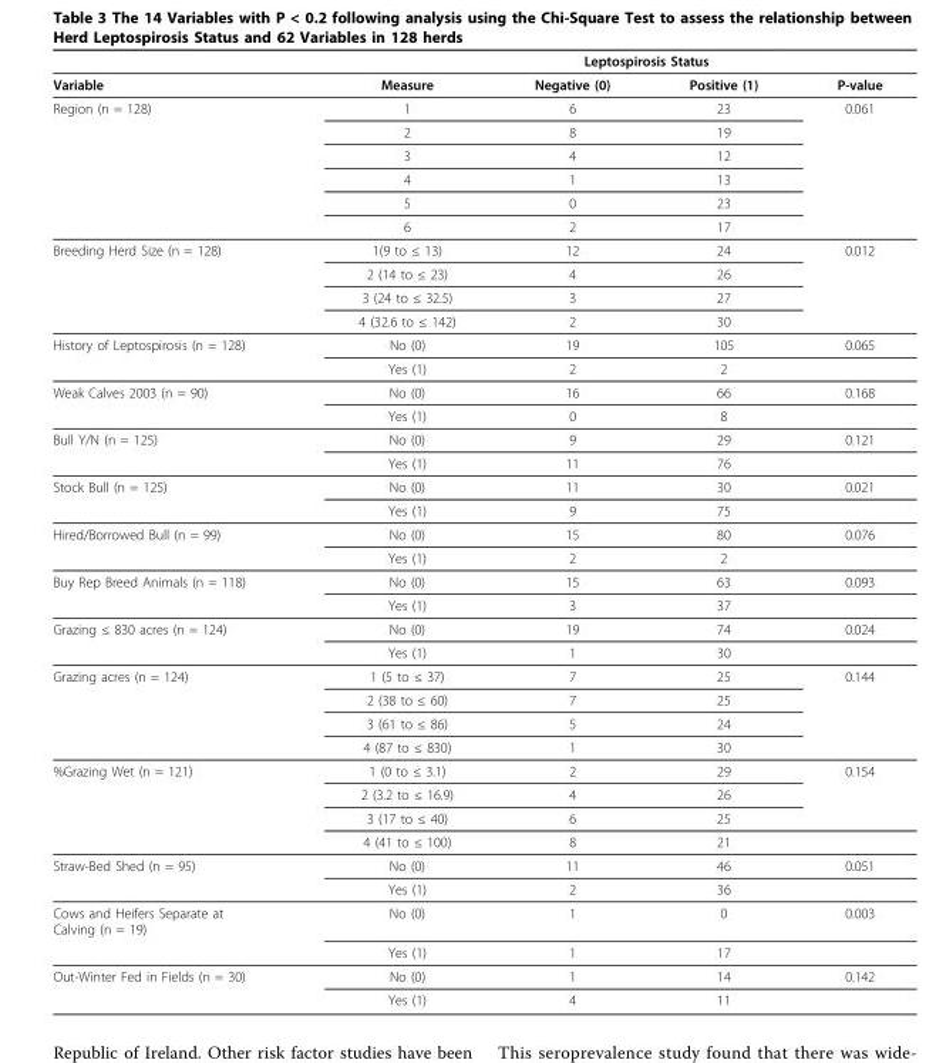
<table><thead><tr><td rowspan="2">Variable</td><td rowspan="2">Measure</td><td colspan="2">Leptospirosis Status</td><td rowspan="2">P-value</td></tr><tr><td>Negative (0)</td><td>Positive (1)</td></tr></thead><tbody><tr><td rowspan="6">Region (n = 128)</td><td>1</td><td>6</td><td>23</td><td>0.061</td></tr><tr><td>2</td><td>8</td><td>19</td><td></td></tr><tr><td>3</td><td>4</td><td>12</td><td></td></tr><tr><td>4</td><td>1</td><td>13</td><td></td></tr><tr><td>5</td><td>0</td><td>23</td><td></td></tr><tr><td>6</td><td>2</td><td>17</td><td></td></tr><tr><td rowspan="4">Breeding Herd Size (n = 128)</td><td>1(9 to ≤ 13)</td><td>12</td><td>24</td><td>0.012</td></tr><tr><td>2 (14 to ≤ 23)</td><td>4</td><td>26</td><td></td></tr><tr><td>3 (24 to ≤ 32.5)</td><td>3</td><td>27</td><td></td></tr><tr><td>4 (32.6 to ≤ 142)</td><td>2</td><td>30</td><td></td></tr><tr><td rowspan="2">History of Leptospirosis (n = 128)</td><td>No (0)</td><td>19</td><td>105</td><td>0.065</td></tr><tr><td>Yes (1)</td><td>2</td><td>2</td><td></td></tr><tr><td rowspan="2">Weak Calves 2003 (n = 90)</td><td>No (0)</td><td>16</td><td>66</td><td>0.168</td></tr><tr><td>Yes (1)</td><td>0</td><td>8</td><td></td></tr><tr><td rowspan="2">Bull Y/N (n = 125)</td><td>No (0)</td><td>9</td><td>29</td><td>0.121</td></tr><tr><td>Yes (1)</td><td>11</td><td>76</td><td></td></tr><tr><td rowspan="2">Stock Bull (n = 125)</td><td>No (0)</td><td>11</td><td>30</td><td>0.021</td></tr><tr><td>Yes (1)</td><td>9</td><td>75</td><td></td></tr><tr><td rowspan="2">Hired/Borrowed Bull (n = 99)</td><td>No (0)</td><td>15</td><td>80</td><td>0.076</td></tr><tr><td>Yes (1)</td><td>2</td><td>2</td><td></td></tr><tr><td rowspan="2">Buy Rep Breed Animals (n = 118)</td><td>No (0)</td><td>15</td><td>63</td><td>0.093</td></tr><tr><td>Yes (1)</td><td>3</td><td>37</td><td></td></tr><tr><td rowspan="2">Grazing ≤ 830 acres (n = 124)</td><td>No (0)</td><td>19</td><td>74</td><td>0.024</td></tr><tr><td>Yes (1)</td><td>1</td><td>30</td><td></td></tr><tr><td rowspan="4">Grazing acres (n = 124)</td><td>1 (5 to ≤ 37)</td><td>7</td><td>25</td><td>0.144</td></tr><tr><td>2 (38 to ≤ 60)</td><td>7</td><td>25</td><td></td></tr><tr><td>3 (61 to ≤ 86)</td><td>5</td><td>24</td><td></td></tr><tr><td>4 (87 to ≤ 830)</td><td>1</td><td>30</td><td></td></tr><tr><td rowspan="4">%Grazing Wet (n = 121)</td><td>1 (0 to ≤ 3.1)</td><td>2</td><td>29</td><td>0.154</td></tr><tr><td>2 (3.2 to ≤ 16.9)</td><td>4</td><td>26</td><td></td></tr><tr><td>3 (17 to ≤ 40)</td><td>6</td><td>25</td><td></td></tr><tr><td>4 (41 to ≤ 100)</td><td>8</td><td>21</td><td></td></tr><tr><td rowspan="2">Straw-Bed Shed (n = 95)</td><td>No (0)</td><td>11</td><td>46</td><td>0.051</td></tr><tr><td>Yes (1)</td><td>2</td><td>36</td><td></td></tr><tr><td rowspan="2">Cows and Heifers Separate at Calving (n = 19)</td><td>No (0)</td><td>1</td><td>0</td><td>0.003</td></tr><tr><td>Yes (1)</td><td>1</td><td>17</td><td></td></tr><tr><td rowspan="2">Out-Winter Fed in Fields (n = 30)</td><td>No (0)</td><td>1</td><td>14</td><td>0.142</td></tr><tr><td>Yes (1)</td><td>4</td><td>11</td><td></td></tr></tbody></table>